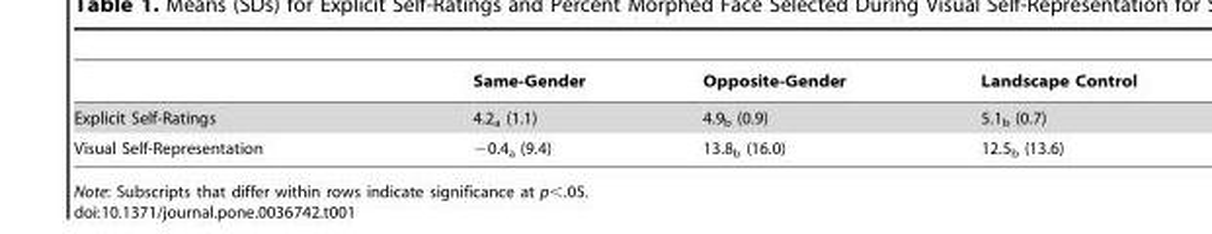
<table><thead><tr><td></td><td>Same-Gender</td><td>Opposite-Gender</td><td>Landscape Control</td></tr></thead><tbody><tr><td>Explicit Self-Ratings</td><td>4.2<sub>a</sub> (1.1)</td><td>4.9<sub>b</sub> (0.9)</td><td>5.1<sub>b</sub> (0.7)</td></tr><tr><td>Visual Self-Representation</td><td>−0.4<sub>a</sub> (9.4)</td><td>13.8<sub>b</sub> (16.0)</td><td>12.5<sub>b</sub> (13.6)</td></tr></tbody></table>